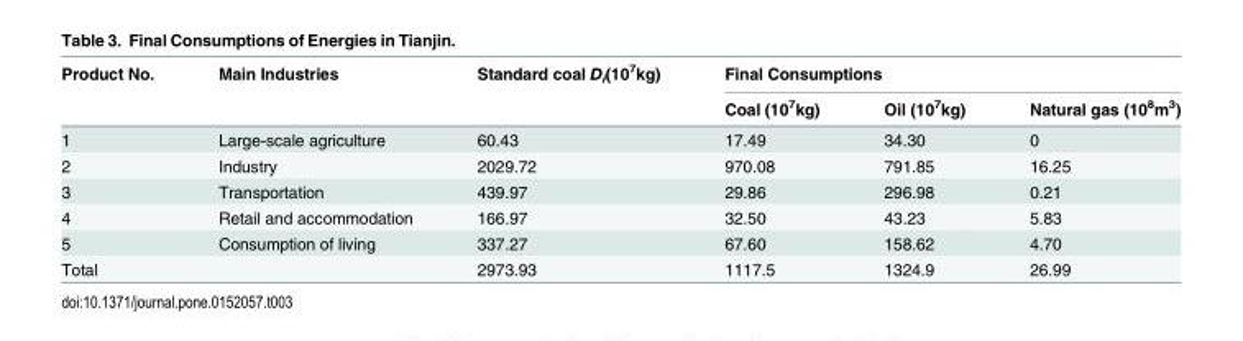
<table><thead><tr><td rowspan="2">Product No.</td><td rowspan="2">Main Industries</td><td rowspan="2">Standard coal D<sub>i</sub>(10<sup>7</sup>kg)</td><td colspan="3">Final Consumptions</td></tr><tr><td>Coal (10<sup>7</sup>kg)</td><td>Oil (10<sup>7</sup>kg)</td><td>Natural gas (10<sup>8</sup>m<sup>3</sup>)</td></tr></thead><tbody><tr><td>1</td><td>Large-scale agriculture</td><td>60.43</td><td>17.49</td><td>34.30</td><td>0</td></tr><tr><td>2</td><td>Industry</td><td>2029.72</td><td>970.08</td><td>791.85</td><td>16.25</td></tr><tr><td>3</td><td>Transportation</td><td>439.97</td><td>29.86</td><td>296.98</td><td>0.21</td></tr><tr><td>4</td><td>Retail and accommodation</td><td>166.97</td><td>32.50</td><td>43.23</td><td>5.83</td></tr><tr><td>5</td><td>Consumption of living</td><td>337.27</td><td>67.60</td><td>158.62</td><td>4.70</td></tr><tr><td>Total</td><td></td><td>2973.93</td><td>1117.5</td><td>1324.9</td><td>26.99</td></tr></tbody></table>